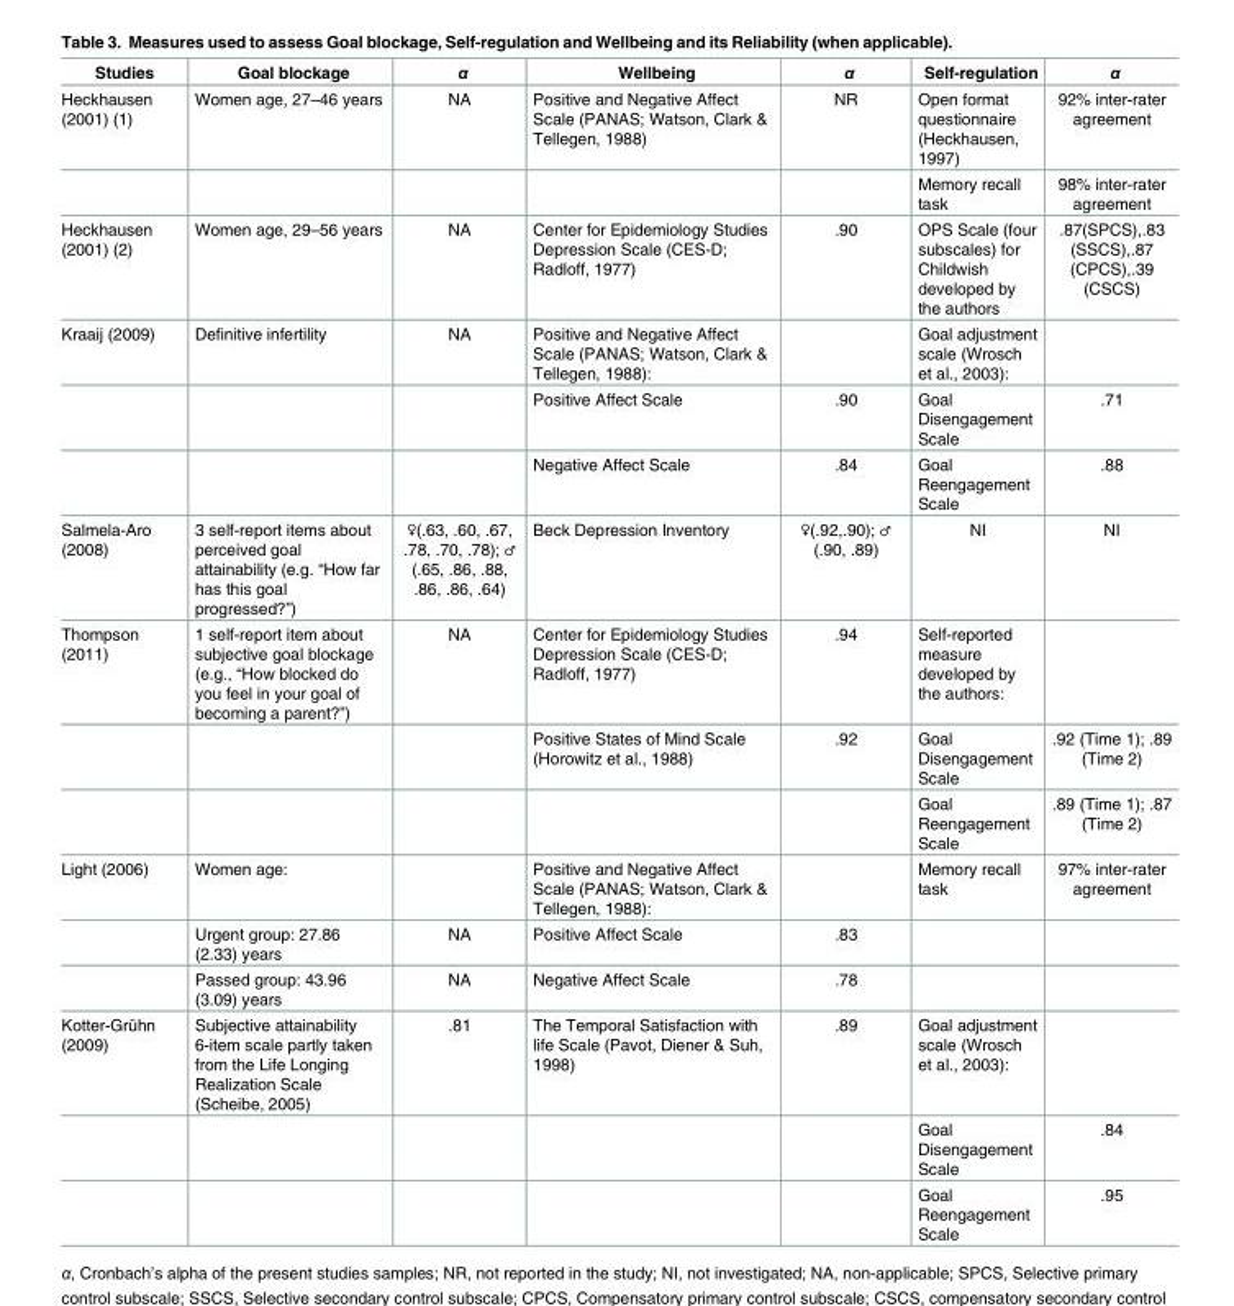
<table><thead><tr><td>Studies</td><td>Goal blockage</td><td>α</td><td>Wellbeing</td><td>α</td><td>Self-regulation</td><td>α</td></tr></thead><tbody><tr><td rowspan="2">Heckhausen (2001) (1)</td><td>Women age, 27–46 years</td><td>NA</td><td>Positive and Negative Affect Scale (PANAS; Watson, Clark &amp; Tellegen, 1988)</td><td>NR</td><td>Open format questionnaire (Heckhausen, 1997)</td><td>92% inter-rater agreement</td></tr><tr><td></td><td></td><td></td><td></td><td>Memory recall task</td><td>98% inter-rater agreement</td></tr><tr><td>Heckhausen (2001) (2)</td><td>Women age, 29–56 years</td><td>NA</td><td>Center for Epidemiology Studies Depression Scale (CES-D; Radloff, 1977)</td><td>.90</td><td>OPS Scale (four subscales) for Childwish developed by the authors</td><td>.87(SPCS),.83 (SSCS),.87 (CPCS),.39 (CSCS)</td></tr><tr><td rowspan="3">Kraaij (2009)</td><td>Definitive infertility</td><td>NA</td><td>Positive and Negative Affect Scale (PANAS; Watson, Clark &amp; Tellegen, 1988):</td><td></td><td>Goal adjustment scale (Wrosch et al., 2003):</td><td></td></tr><tr><td></td><td></td><td>Positive Affect Scale</td><td>.90</td><td>Goal Disengagement Scale</td><td>.71</td></tr><tr><td></td><td></td><td>Negative Affect Scale</td><td>.84</td><td>Goal Reengagement Scale</td><td>.88</td></tr><tr><td>Salmela-Aro (2008)</td><td>3 self-report items about perceived goal attainability (e.g. “How far has this goal progressed?”)</td><td>♀(.63, .60, .67, .78, .70, .78); ♂ (.65, .86, .88, .86, .86, .64)</td><td>Beck Depression Inventory</td><td>♀(.92,.90); ♂ (.90, .89)</td><td>NI</td><td>NI</td></tr><tr><td rowspan="3">Thompson (2011)</td><td>1 self-report item about subjective goal blockage (e.g., “How blocked do you feel in your goal of becoming a parent?”)</td><td>NA</td><td>Center for Epidemiology Studies Depression Scale (CES-D; Radloff, 1977)</td><td>.94</td><td>Self-reported measure developed by the authors:</td><td></td></tr><tr><td></td><td></td><td>Positive States of Mind Scale (Horowitz et al., 1988)</td><td>.92</td><td>Goal Disengagement Scale</td><td>.92 (Time 1); .89 (Time 2)</td></tr><tr><td></td><td></td><td></td><td></td><td>Goal Reengagement Scale</td><td>.89 (Time 1); .87 (Time 2)</td></tr><tr><td rowspan="3">Light (2006)</td><td>Women age:</td><td></td><td>Positive and Negative Affect Scale (PANAS; Watson, Clark &amp; Tellegen, 1988):</td><td></td><td>Memory recall task</td><td>97% inter-rater agreement</td></tr><tr><td>Urgent group: 27.86 (2.33) years</td><td>NA</td><td>Positive Affect Scale</td><td>.83</td><td></td><td></td></tr><tr><td>Passed group: 43.96 (3.09) years</td><td>NA</td><td>Negative Affect Scale</td><td>.78</td><td></td><td></td></tr><tr><td rowspan="3">Kotter-Grühn (2009)</td><td>Subjective attainability 6-item scale partly taken from the Life Longing Realization Scale (Scheibe, 2005)</td><td>.81</td><td>The Temporal Satisfaction with life Scale (Pavot, Diener &amp; Suh, 1998)</td><td>.89</td><td>Goal adjustment scale (Wrosch et al., 2003):</td><td></td></tr><tr><td></td><td></td><td></td><td></td><td>Goal Disengagement Scale</td><td>.84</td></tr><tr><td></td><td></td><td></td><td></td><td>Goal Reengagement Scale</td><td>.95</td></tr></tbody></table>